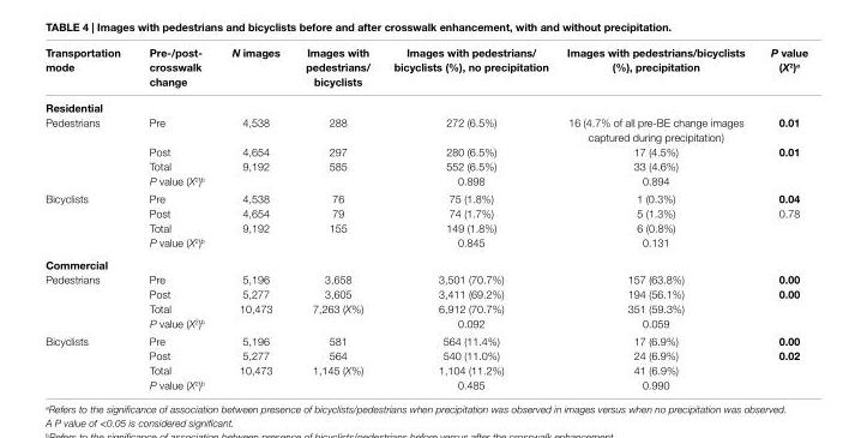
<table><thead><tr><td>Transportation mode</td><td>Pre-/post- crosswalk change</td><td>N images</td><td>images with pedestrians/ bicyclists</td><td>images with pedestrians/ bicyclists (%), no precipitation</td><td>images with pedestrians/bicyclists (%), precipitation</td><td>P value (X<sup>2</sup>)<sup>a</sup></td></tr></thead><tbody><tr><td colspan="7">residential</td></tr><tr><td rowspan="4">Pedestrians</td><td>Pre</td><td>4,538</td><td>288</td><td>272 (6.5%)</td><td>16 (4.7% of all pre-BE change images captured during precipitation)</td><td>0.01</td></tr><tr><td>Post</td><td>4,654</td><td>297</td><td>280 (6.5%)</td><td>17 (4.5%)</td><td>0.01</td></tr><tr><td>Total</td><td>9,192</td><td>585</td><td>552 (6.5%)</td><td>33 (4.6%)</td><td></td></tr><tr><td>P value (X<sup>2</sup>)<sup>b</sup></td><td></td><td></td><td>0.898</td><td>0.894</td><td></td></tr><tr><td rowspan="4">Bicyclists</td><td>Pre</td><td>4,538</td><td>76</td><td>75 (1.8%)</td><td>1 (0.3%)</td><td>0.04</td></tr><tr><td>Post</td><td>4,654</td><td>79</td><td>74 (1.7%)</td><td>5 (1.3%)</td><td>0.78</td></tr><tr><td>Total</td><td>9,192</td><td>155</td><td>149 (1.8%)</td><td>6 (0.8%)</td><td></td></tr><tr><td>P value (X<sup>2</sup>)<sup>b</sup></td><td></td><td></td><td>0.845</td><td>0.131</td><td></td></tr><tr><td colspan="7">commercial</td></tr><tr><td rowspan="4">Pedestrians</td><td>Pre</td><td>5,196</td><td>3,658</td><td>3,501 (70.7%)</td><td>157 (63.8%)</td><td>0.00</td></tr><tr><td>Post</td><td>5,277</td><td>3,605</td><td>3,411 (69.2%)</td><td>194 (56.1%)</td><td>0.00</td></tr><tr><td>Total</td><td>10,473</td><td>7,263 (X%)</td><td>6,912 (70.7%)</td><td>351 (59.3%)</td><td></td></tr><tr><td>P value (X<sup>2</sup>)<sup>b</sup></td><td></td><td></td><td>0.092</td><td>0.059</td><td></td></tr><tr><td rowspan="4">Bicyclists</td><td>Pre</td><td>5,196</td><td>581</td><td>564 (11.4%)</td><td>17 (6.9%)</td><td>0.00</td></tr><tr><td>Post</td><td>5,277</td><td>564</td><td>540 (11.0%)</td><td>24 (6.9%)</td><td>0.02</td></tr><tr><td>Total</td><td>10,473</td><td>1,145 (X%)</td><td>1,104 (11.2%)</td><td>41 (6.9%)</td><td></td></tr><tr><td>P value (X<sup>2</sup>)<sup>b</sup></td><td></td><td></td><td>0.485</td><td>0.990</td><td></td></tr></tbody></table>